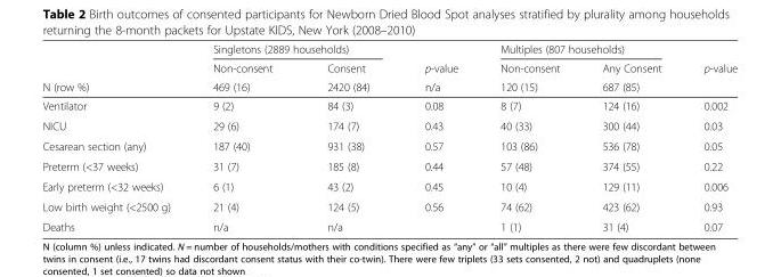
<table><thead><tr><td rowspan="3">N (row %)</td><td colspan="2">Singletons (2889 households)</td><td rowspan="3">p-value n/a</td><td colspan="2">Multiples (807 households)</td><td rowspan="3">p-value</td></tr><tr><td rowspan="2">Non-consent 469 (16)</td><td rowspan="2">Consent 2420 (84)</td><td rowspan="2">Non-consent 120 (15)</td><td rowspan="2">Any Consent 687 (85)</td></tr><tr></tr></thead><tbody><tr><td>Ventilator</td><td>9 (2)</td><td>84 (3)</td><td>0.08</td><td>8 (7)</td><td>124 (16)</td><td>0.002</td></tr><tr><td>NICU</td><td>29 (6)</td><td>174 (7)</td><td>0.43</td><td>40 (33)</td><td>300 (44)</td><td>0.03</td></tr><tr><td>Cesarean section (any)</td><td>187 (40)</td><td>931 (38)</td><td>0.57</td><td>103 (86)</td><td>536 (78)</td><td>0.05</td></tr><tr><td>Preterm (&lt;37 weeks)</td><td>31 (7)</td><td>185 (8)</td><td>0.44</td><td>57 (48)</td><td>374 (55)</td><td>0.22</td></tr><tr><td>Early preterm (&lt;32 weeks)</td><td>6 (1)</td><td>43 (2)</td><td>0.45</td><td>10 (4)</td><td>129 (11)</td><td>0.006</td></tr><tr><td>Low birth weight (&lt;2500 g)</td><td>21 (4)</td><td>124 (5)</td><td>0.56</td><td>74 (62)</td><td>423 (62)</td><td>0.93</td></tr><tr><td>Deaths</td><td>n/a</td><td>n/a</td><td></td><td>1 (1)</td><td>31 (4)</td><td>0.07</td></tr></tbody></table>